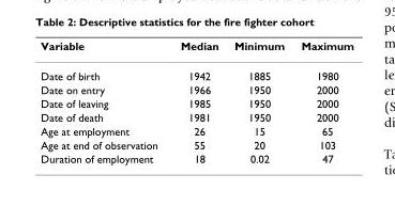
<table><thead><tr><td>Variable</td><td>Median</td><td>Minimum</td><td>Maximum</td></tr></thead><tbody><tr><td>Date of birth</td><td>1942</td><td>1885</td><td>1980</td></tr><tr><td>Date on entry</td><td>1966</td><td>1950</td><td>2000</td></tr><tr><td>Date of leaving</td><td>1985</td><td>1950</td><td>2000</td></tr><tr><td>Date of death</td><td>1981</td><td>1950</td><td>2000</td></tr><tr><td>Age at employment</td><td>26</td><td>15</td><td>65</td></tr><tr><td>Age at end of observation</td><td>55</td><td>20</td><td>103</td></tr><tr><td>Duration of employment</td><td>18</td><td>0.02</td><td>47</td></tr></tbody></table>